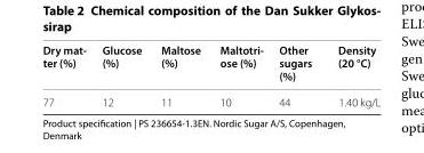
<table><thead><tr><td>Dry mat- ter (%)</td><td>Glucose (%)</td><td>Maltose (%)</td><td>Maltotri- ose (%)</td><td>Other sugars (%)</td><td>Density (20 °C)</td></tr></thead><tbody><tr><td>77</td><td>12</td><td>11</td><td>10</td><td>44</td><td>1.40 kg/L</td></tr></tbody></table>